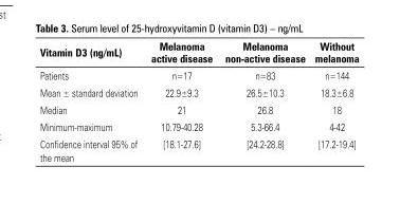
<table><thead><tr><td>Vitamin D3 (ng/mL)</td><td>Melanoma active disease</td><td>Melanoma non-active disease</td><td>Without melanoma</td></tr></thead><tbody><tr><td>Patients</td><td>n=17</td><td>n=83</td><td>n=144</td></tr><tr><td>Mean ± standard deviation</td><td>22.9±9.3</td><td>26.5±10.3</td><td>18.3±6.8</td></tr><tr><td>Median</td><td>21</td><td>26.8</td><td>18</td></tr><tr><td>Minimum-maximum</td><td>10.79-40.28</td><td>5.3-66.4</td><td>4-42</td></tr><tr><td>Confidence interval 95% of the mean</td><td>[18.1-27.6]</td><td>[24.2-28.8]</td><td>[17.2-19.4]</td></tr></tbody></table>